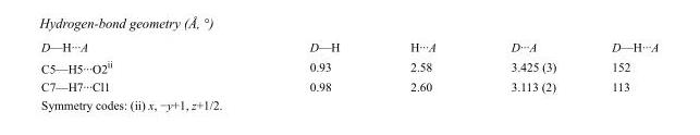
<table><tbody><tr><td>D—H···A</td><td>D—H</td><td>H···A</td><td>D···A</td><td>D—H···A</td></tr><tr><td>C5—H5···O2<sup>ii</sup></td><td>0.93</td><td>2.58</td><td>3.425 (3)</td><td>152</td></tr><tr><td>C7—H7···Cl1</td><td>0.98</td><td>2.60</td><td>3.113 (2)</td><td>113</td></tr></tbody></table>